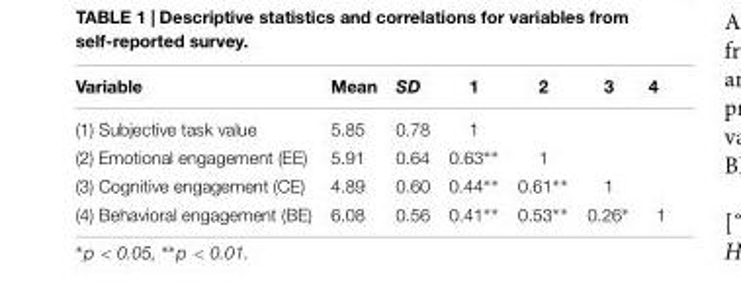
<table><thead><tr><td>Variable</td><td>Mean</td><td>SD</td><td>1</td><td>2</td><td>3</td><td>4</td></tr></thead><tbody><tr><td>(1) Subjective task value</td><td>5.85</td><td>0.78</td><td>1</td><td></td><td></td><td></td></tr><tr><td>(2) Emotional engagement (EE)</td><td>5.91</td><td>0.64</td><td>0.63∗∗</td><td>1</td><td></td><td></td></tr><tr><td>(3) Cognitive engagement (CE)</td><td>4.89</td><td>0.60</td><td>0.44∗∗</td><td>0.61∗∗</td><td>1</td><td></td></tr><tr><td>(4) Behavioral engagement (BE)</td><td>6.08</td><td>0.56</td><td>0.41∗∗</td><td>0.53∗∗</td><td>0.26∗</td><td>1</td></tr></tbody></table>